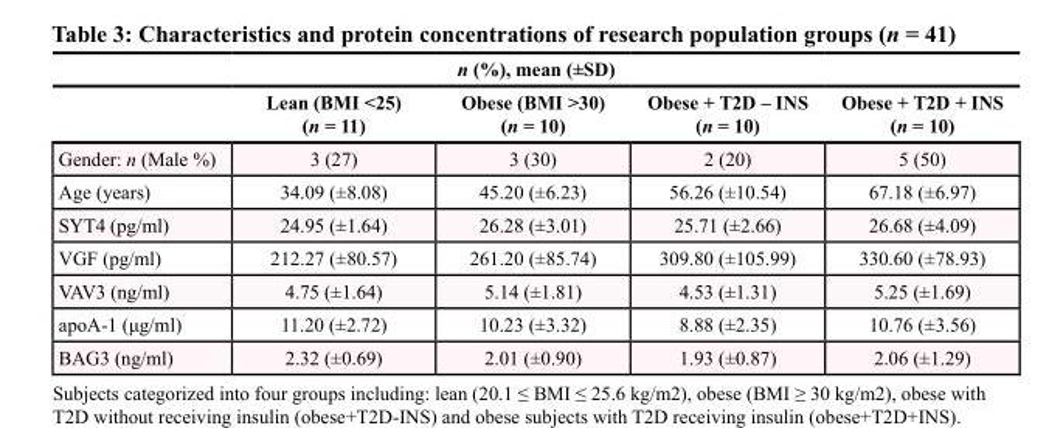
<table><thead><tr><td colspan="5">n (%), mean (±SD)</td></tr><tr><td></td><td>Lean (BMI &lt;25) (n = 11)</td><td>Obese (BMI &gt;30) (n = 10)</td><td>Obese + T2D – INS (n = 10)</td><td>Obese + T2D + INS (n = 10)</td></tr></thead><tbody><tr><td>Gender: n (Male %)</td><td>3 (27)</td><td>3 (30)</td><td>2 (20)</td><td>5 (50)</td></tr><tr><td>Age (years)</td><td>34.09 (±8.08)</td><td>45.20 (±6.23)</td><td>56.26 (±10.54)</td><td>67.18 (±6.97)</td></tr><tr><td>SYT4 (pg/ml)</td><td>24.95 (±1.64)</td><td>26.28 (±3.01)</td><td>25.71 (±2.66)</td><td>26.68 (±4.09)</td></tr><tr><td>VGF (pg/ml)</td><td>212.27 (±80.57)</td><td>261.20 (±85.74)</td><td>309.80 (±105.99)</td><td>330.60 (±78.93)</td></tr><tr><td>VAV3 (ng/ml)</td><td>4.75 (±1.64)</td><td>5.14 (±1.81)</td><td>4.53 (±1.31)</td><td>5.25 (±1.69)</td></tr><tr><td>apoA-1 (μg/ml)</td><td>11.20 (±2.72)</td><td>10.23 (±3.32)</td><td>8.88 (±2.35)</td><td>10.76 (±3.56)</td></tr><tr><td>BAG3 (ng/ml)</td><td>2.32 (±0.69)</td><td>2.01 (±0.90)</td><td>1.93 (±0.87)</td><td>2.06 (±1.29)</td></tr></tbody></table>